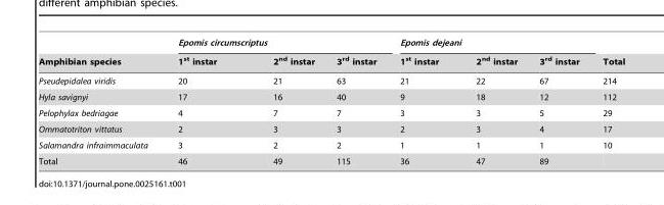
<table><thead><tr><td rowspan="2">Amphibian species</td><td colspan="3">Epomis circumscriptus</td><td colspan="3">Epomis dejeani</td><td rowspan="2">Total</td></tr><tr><td>1<sup>st</sup> instar</td><td>2<sup>nd</sup> instar</td><td>3<sup>rd</sup> instar</td><td>1<sup>st</sup> instar</td><td>2<sup>nd</sup> instar</td><td>3<sup>rd</sup> instar</td></tr></thead><tbody><tr><td>Pseudepidalea viridis</td><td>20</td><td>21</td><td>63</td><td>21</td><td>22</td><td>67</td><td>214</td></tr><tr><td>Hyla savignyi</td><td>17</td><td>16</td><td>40</td><td>9</td><td>18</td><td>12</td><td>112</td></tr><tr><td>Pelophylax bedriagae</td><td>4</td><td>7</td><td>7</td><td>3</td><td>3</td><td>5</td><td>29</td></tr><tr><td>Ommatotriton vittatus</td><td>2</td><td>3</td><td>3</td><td>2</td><td>3</td><td>4</td><td>17</td></tr><tr><td>Salamandra infraimmaculata</td><td>3</td><td>2</td><td>2</td><td>1</td><td>1</td><td>1</td><td>10</td></tr><tr><td>Total</td><td>46</td><td>49</td><td>115</td><td>36</td><td>47</td><td>89</td><td></td></tr></tbody></table>